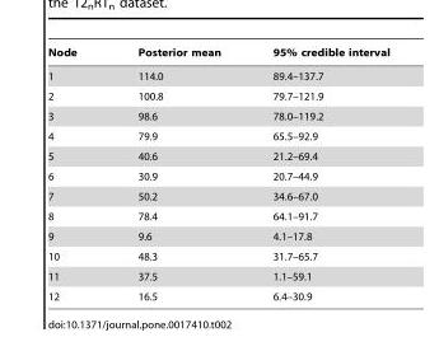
<table><thead><tr><td>Node</td><td>Posterior mean</td><td>95% credible interval</td></tr></thead><tbody><tr><td>1</td><td>114.0</td><td>89.4–137.7</td></tr><tr><td>2</td><td>100.8</td><td>79.7–121.9</td></tr><tr><td>3</td><td>98.6</td><td>78.0–119.2</td></tr><tr><td>4</td><td>79.9</td><td>65.5–92.9</td></tr><tr><td>5</td><td>40.6</td><td>21.2–69.4</td></tr><tr><td>6</td><td>30.9</td><td>20.7–44.9</td></tr><tr><td>7</td><td>50.2</td><td>34.6–67.0</td></tr><tr><td>8</td><td>78.4</td><td>64.1–91.7</td></tr><tr><td>9</td><td>9.6</td><td>4.1–17.8</td></tr><tr><td>10</td><td>48.3</td><td>31.7–65.7</td></tr><tr><td>11</td><td>37.5</td><td>1.1–59.1</td></tr><tr><td>12</td><td>16.5</td><td>6.4–30.9</td></tr></tbody></table>